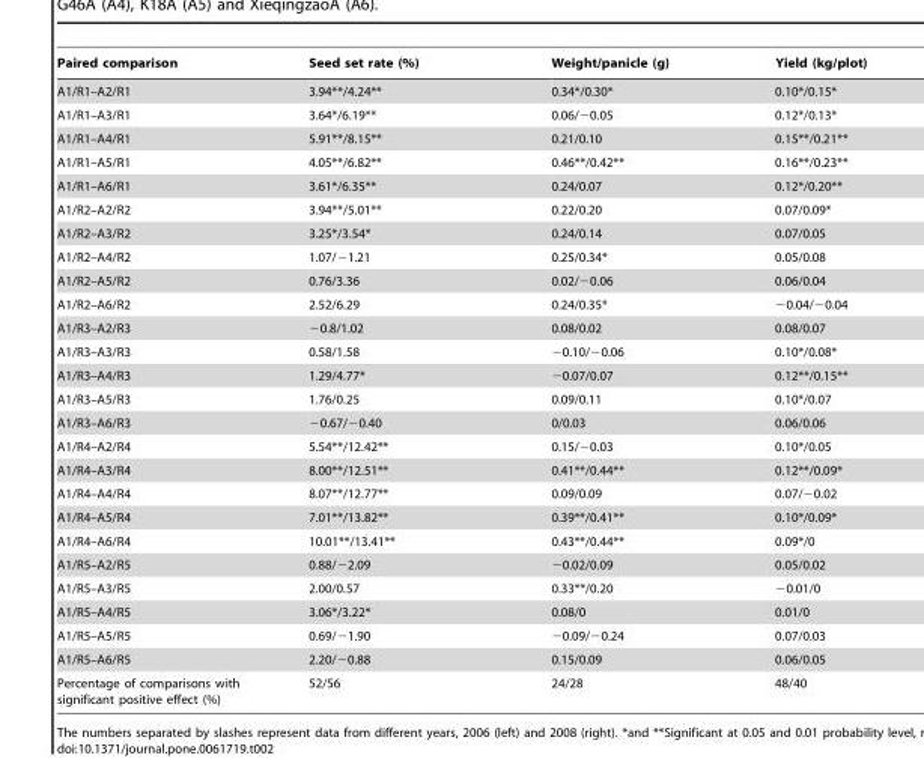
<table><thead><tr><td>Paired comparison</td><td>Seed set rate (%)</td><td>Weight/panicle (g)</td><td>Yield (kg/plot)</td></tr></thead><tbody><tr><td>A1/R1–A2/R1</td><td>3.94**/4.24**</td><td>0.34*/0.30*</td><td>0.10*/0.15*</td></tr><tr><td>A1/R1–A3/R1</td><td>3.64*/6.19**</td><td>0.06/−0.05</td><td>0.12*/0.13*</td></tr><tr><td>A1/R1–A4/R1</td><td>5.91**/8.15**</td><td>0.21/0.10</td><td>0.15**/0.21**</td></tr><tr><td>A1/R1–A5/R1</td><td>4.05**/6.82**</td><td>0.46**/0.42**</td><td>0.16**/0.23**</td></tr><tr><td>A1/R1–A6/R1</td><td>3.61*/6.35**</td><td>0.24/0.07</td><td>0.12*/0.20**</td></tr><tr><td>A1/R2–A2/R2</td><td>3.94**/5.01**</td><td>0.22/0.20</td><td>0.07/0.09*</td></tr><tr><td>A1/R2–A3/R2</td><td>3.25*/3.54*</td><td>0.24/0.14</td><td>0.07/0.05</td></tr><tr><td>A1/R2–A4/R2</td><td>1.07/−1.21</td><td>0.25/0.34*</td><td>0.05/0.08</td></tr><tr><td>A1/R2–A5/R2</td><td>0.76/3.36</td><td>0.02/−0.06</td><td>0.06/0.04</td></tr><tr><td>A1/R2–A6/R2</td><td>2.52/6.29</td><td>0.24/0.35*</td><td>−0.04/−0.04</td></tr><tr><td>A1/R3–A2/R3</td><td>−0.8/1.02</td><td>0.08/0.02</td><td>0.08/0.07</td></tr><tr><td>A1/R3–A3/R3</td><td>0.58/1.58</td><td>−0.10/−0.06</td><td>0.10*/0.08*</td></tr><tr><td>A1/R3–A4/R3</td><td>1.29/4.77*</td><td>−0.07/0.07</td><td>0.12**/0.15**</td></tr><tr><td>A1/R3–A5/R3</td><td>1.76/0.25</td><td>0.09/0.11</td><td>0.10*/0.07</td></tr><tr><td>A1/R3–A6/R3</td><td>−0.67/−0.40</td><td>0/0.03</td><td>0.06/0.06</td></tr><tr><td>A1/R4–A2/R4</td><td>5.54**/12.42**</td><td>0.15/−0.03</td><td>0.10*/0.05</td></tr><tr><td>A1/R4–A3/R4</td><td>8.00**/12.51**</td><td>0.41**/0.44**</td><td>0.12**/0.09*</td></tr><tr><td>A1/R4–A4/R4</td><td>8.07**/12.77**</td><td>0.09/0.09</td><td>0.07/−0.02</td></tr><tr><td>A1/R4–A5/R4</td><td>7.01**/13.82**</td><td>0.39**/0.41**</td><td>0.10*/0.09*</td></tr><tr><td>A1/R4–A6/R4</td><td>10.01**/13.41**</td><td>0.43**/0.44**</td><td>0.09*/0</td></tr><tr><td>A1/R5–A2/R5</td><td>0.88/−2.09</td><td>−0.02/0.09</td><td>0.05/0.02</td></tr><tr><td>A1/R5–A3/R5</td><td>2.00/0.57</td><td>0.33**/0.20</td><td>−0.01/0</td></tr><tr><td>A1/R5–A4/R5</td><td>3.06*/3.22*</td><td>0.08/0</td><td>0.01/0</td></tr><tr><td>A1/R5–A5/R5</td><td>0.69/−1.90</td><td>−0.09/−0.24</td><td>0.07/0.03</td></tr><tr><td>A1/R5–A6/R5</td><td>2.20/−0.88</td><td>0.15/0.09</td><td>0.06/0.05</td></tr><tr><td>Percentage of comparisons with significant positive effect (%)</td><td>52/56</td><td>24/28</td><td>48/40</td></tr></tbody></table>